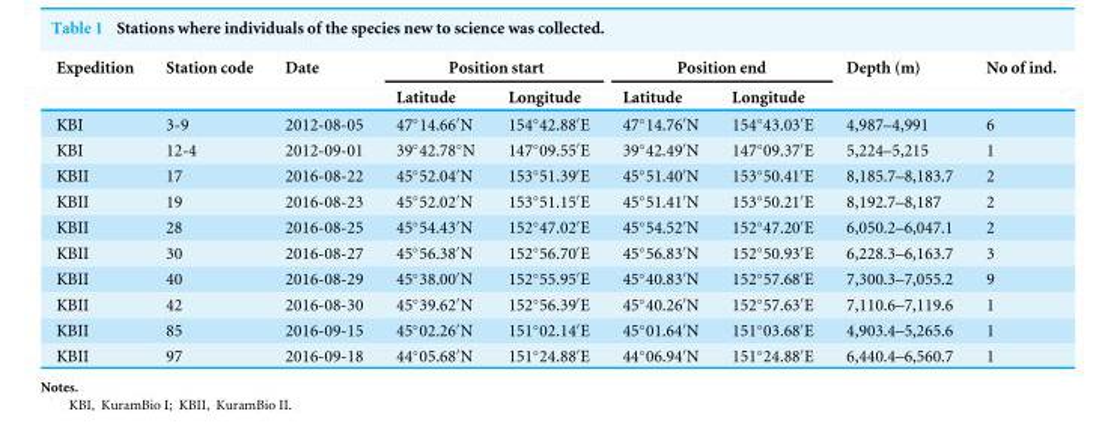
<table><thead><tr><td rowspan="2">Expedition</td><td rowspan="2">Station code</td><td rowspan="2">Date</td><td colspan="2">Position start</td><td colspan="2">Position end</td><td rowspan="2">Depth (m)</td><td rowspan="2">No of ind.</td></tr><tr><td>Latitude</td><td>Longitude</td><td>Latitude</td><td>Longitude</td></tr></thead><tbody><tr><td>KBI</td><td>3-9</td><td>2012-08-05</td><td>47◦14.66′N</td><td>154◦42.88′E</td><td>47◦14.76′N</td><td>154◦43.03′E</td><td>4,987–4,991</td><td>6</td></tr><tr><td>KBI</td><td>12-4</td><td>2012-09-01</td><td>39◦42.78◦N</td><td>147◦09.55′E</td><td>39◦42.49′N</td><td>147◦09.37′E</td><td>5,224–5,215</td><td>1</td></tr><tr><td>KBII</td><td>17</td><td>2016-08-22</td><td>45◦52.04′N</td><td>153◦51.39′E</td><td>45◦51.40′N</td><td>153◦50.41′E</td><td>8,185.7–8,183.7</td><td>2</td></tr><tr><td>KBII</td><td>19</td><td>2016-08-23</td><td>45◦52.02′N</td><td>153◦51.15′E</td><td>45◦51.41′N</td><td>153◦50.21′E</td><td>8,192.7–8,187</td><td>2</td></tr><tr><td>KBII</td><td>28</td><td>2016-08-25</td><td>45◦54.43′N</td><td>152◦47.02′E</td><td>45◦54.52′N</td><td>152◦47.20′E</td><td>6,050.2–6,047.1</td><td>2</td></tr><tr><td>KBII</td><td>30</td><td>2016-08-27</td><td>45◦56.38′N</td><td>152◦56.70′E</td><td>45◦56.83′N</td><td>152◦50.93′E</td><td>6,228.3–6,163.7</td><td>3</td></tr><tr><td>KBII</td><td>40</td><td>2016-08-29</td><td>45◦38.00′N</td><td>152◦55.95′E</td><td>45◦40.83′N</td><td>152◦57.68′E</td><td>7,300.3–7,055.2</td><td>9</td></tr><tr><td>KBII</td><td>42</td><td>2016-08-30</td><td>45◦39.62′N</td><td>152◦56.39′E</td><td>45◦40.26′N</td><td>152◦57.63′E</td><td>7,110.6–7,119.6</td><td>1</td></tr><tr><td>KBII</td><td>85</td><td>2016-09-15</td><td>45◦02.26′N</td><td>151◦02.14′E</td><td>45◦01.64′N</td><td>151◦03.68′E</td><td>4,903.4–5,265.6</td><td>1</td></tr><tr><td>KBII</td><td>97</td><td>2016-09-18</td><td>44◦05.68′N</td><td>151◦24.88′E</td><td>44◦06.94′N</td><td>151◦24.88′E</td><td>6,440.4–6,560.7</td><td>1</td></tr></tbody></table>